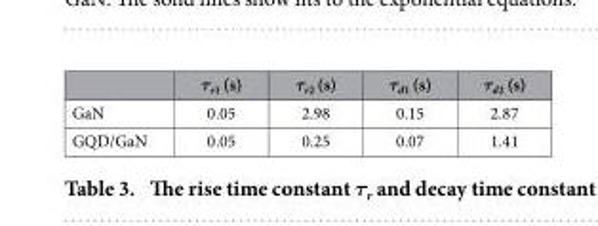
<table><thead><tr><td></td><td>τ<sub>r1</sub> (s)</td><td>τ<sub>r2</sub> (s)</td><td>τ<sub>d1</sub> (s)</td><td>τ<sub>d2</sub> (s)</td></tr></thead><tbody><tr><td>GaN</td><td>0.05</td><td>2.98</td><td>0.15</td><td>2.87</td></tr><tr><td>GQD/GaN</td><td>0.05</td><td>0.25</td><td>0.07</td><td>1.41</td></tr></tbody></table>